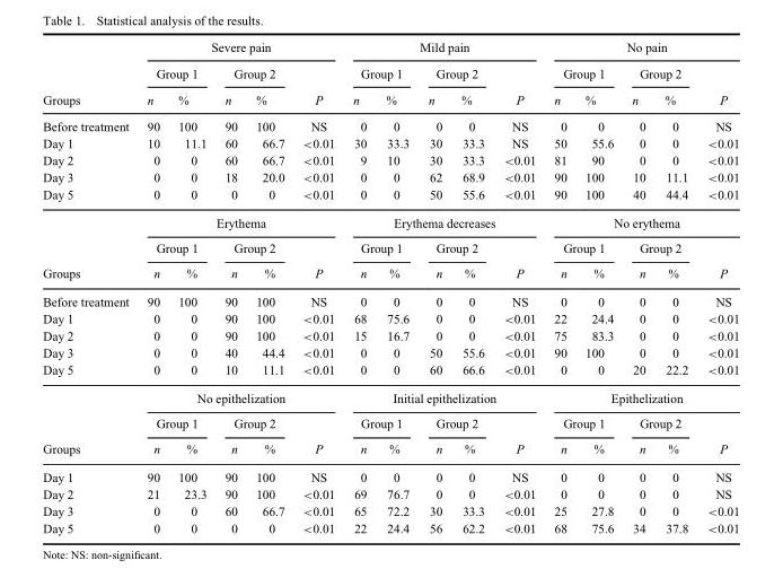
<table><thead><tr><td rowspan="3">Groups</td><td colspan="5">Severe pain</td><td colspan="5">Mild pain</td><td colspan="5">No pain</td></tr><tr><td colspan="2">Group 1</td><td colspan="2">Group 2</td><td rowspan="2">P</td><td colspan="2">Group 1</td><td colspan="2">Group 2</td><td rowspan="2">P</td><td colspan="2">Group 1</td><td colspan="2">Group 2</td><td rowspan="2">P</td></tr><tr><td>n</td><td>%</td><td>n</td><td>%</td><td>n</td><td>%</td><td>n</td><td>%</td><td>n</td><td>%</td><td>n</td><td>%</td></tr></thead><tbody><tr><td>Before treatment</td><td>90</td><td>100</td><td>90</td><td>100</td><td>NS</td><td>0</td><td>0</td><td>0</td><td>0</td><td>NS</td><td>0</td><td>0</td><td>0</td><td>0</td><td>NS</td></tr><tr><td>Day 1</td><td>10</td><td>11.1</td><td>60</td><td>66.7</td><td>&lt;0.01</td><td>30</td><td>33.3</td><td>30</td><td>33.3</td><td>NS</td><td>50</td><td>55.6</td><td>0</td><td>0</td><td>&lt;0.01</td></tr><tr><td>Day 2</td><td>0</td><td>0</td><td>60</td><td>66.7</td><td>&lt;0.01</td><td>9</td><td>10</td><td>30</td><td>33.3</td><td>&lt;0.01</td><td>81</td><td>90</td><td>0</td><td>0</td><td>&lt;0.01</td></tr><tr><td>Day 3</td><td>0</td><td>0</td><td>18</td><td>20.0</td><td>&lt;0.01</td><td>0</td><td>0</td><td>62</td><td>68.9</td><td>&lt;0.01</td><td>90</td><td>100</td><td>10</td><td>11.1</td><td>&lt;0.01</td></tr><tr><td rowspan="3">Day 5</td><td>0</td><td>0</td><td>0</td><td>0</td><td>&lt;0.01</td><td>0</td><td>0</td><td>50</td><td>55.6</td><td>&lt;0.01</td><td>90</td><td>100</td><td>40</td><td>44.4</td><td>&lt;0.01</td></tr><tr><td colspan="5">Erythema</td><td colspan="5">Erythema decreases</td><td colspan="5">No erythema</td></tr><tr><td colspan="2">Group 1</td><td colspan="2">Group 2</td><td></td><td colspan="2">Group 1</td><td colspan="2">Group 2</td><td></td><td colspan="2">Group 1</td><td colspan="2">Group 2</td><td></td></tr><tr><td>Groups</td><td>n</td><td>%</td><td>n</td><td>%</td><td>P</td><td>n</td><td>%</td><td>n</td><td>%</td><td>P</td><td>n</td><td>%</td><td>n</td><td>%</td><td>P</td></tr><tr><td>Before treatment</td><td>90</td><td>100</td><td>90</td><td>100</td><td>NS</td><td>0</td><td>0</td><td>0</td><td>0</td><td>NS</td><td>0</td><td>0</td><td>0</td><td>0</td><td>NS</td></tr><tr><td>Day 1</td><td>0</td><td>0</td><td>90</td><td>100</td><td>&lt;0.01</td><td>68</td><td>75.6</td><td>0</td><td>0</td><td>&lt;0.01</td><td>22</td><td>24.4</td><td>0</td><td>0</td><td>&lt;0.01</td></tr><tr><td>Day 2</td><td>0</td><td>0</td><td>90</td><td>100</td><td>&lt;0.01</td><td>15</td><td>16.7</td><td>0</td><td>0</td><td>&lt;0.01</td><td>75</td><td>83.3</td><td>0</td><td>0</td><td>&lt;0.01</td></tr><tr><td>Day 3</td><td>0</td><td>0</td><td>40</td><td>44.4</td><td>&lt;0.01</td><td>0</td><td>0</td><td>50</td><td>55.6</td><td>&lt;0.01</td><td>90</td><td>100</td><td>0</td><td>0</td><td>&lt;0.01</td></tr><tr><td rowspan="3">Day 5</td><td>0</td><td>0</td><td>10</td><td>11.1</td><td>&lt;0.01</td><td>0</td><td>0</td><td>60</td><td>66.6</td><td>&lt;0.01</td><td>0</td><td>0</td><td>20</td><td>22.2</td><td>&lt;0.01</td></tr><tr><td colspan="5">No epithelization</td><td colspan="5">Initial epithelization</td><td colspan="5">Epithelization</td></tr><tr><td colspan="2">Group 1</td><td colspan="2">Group 2</td><td></td><td colspan="2">Group 1</td><td colspan="2">Group 2</td><td></td><td colspan="2">Group 1</td><td colspan="2">Group 2</td><td></td></tr><tr><td>Groups</td><td>n</td><td>%</td><td>n</td><td>%</td><td>P</td><td>n</td><td>%</td><td>n</td><td>%</td><td>P</td><td>n</td><td>%</td><td>n</td><td>%</td><td>P</td></tr><tr><td>Day 1</td><td>90</td><td>100</td><td>90</td><td>100</td><td>NS</td><td>0</td><td>0</td><td>0</td><td>0</td><td>NS</td><td>0</td><td>0</td><td>0</td><td>0</td><td>NS</td></tr><tr><td>Day 2</td><td>21</td><td>23.3</td><td>90</td><td>100</td><td>&lt;0.01</td><td>69</td><td>76.7</td><td>0</td><td>0</td><td>&lt;0.01</td><td>0</td><td>0</td><td>0</td><td>0</td><td>NS</td></tr><tr><td>Day 3</td><td>0</td><td>0</td><td>60</td><td>66.7</td><td>&lt;0.01</td><td>65</td><td>72.2</td><td>30</td><td>33.3</td><td>&lt;0.01</td><td>25</td><td>27.8</td><td>0</td><td>0</td><td>&lt;0.01</td></tr><tr><td>Day 5</td><td>0</td><td>0</td><td>0</td><td>0</td><td>&lt;0.01</td><td>22</td><td>24.4</td><td>56</td><td>62.2</td><td>&lt;0.01</td><td>68</td><td>75.6</td><td>34</td><td>37.8</td><td>&lt;0.01</td></tr></tbody></table>